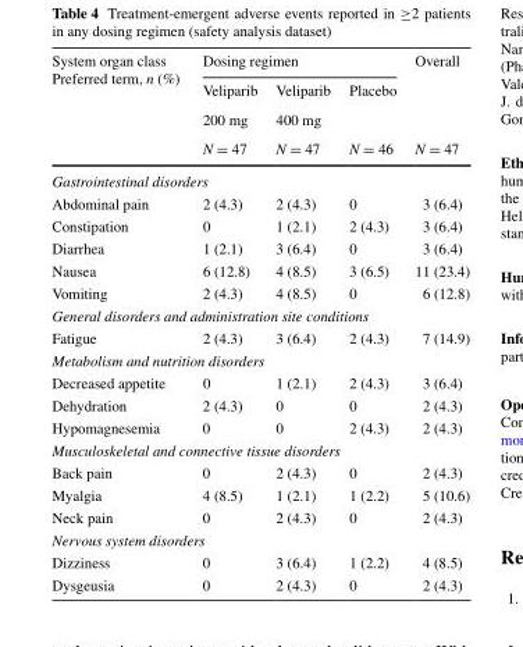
<table><thead><tr><td rowspan="4">System organ class Preferred term, n (%)</td><td colspan="3">Dosing regimen</td><td rowspan="4">Overall N = 47</td></tr><tr><td rowspan="3">Veliparib 200 mg N = 47</td><td rowspan="3">Veliparib 400 mg N = 47</td><td rowspan="3">Placebo N = 46</td></tr><tr></tr><tr></tr></thead><tbody><tr><td colspan="5">Gastrointestinal disorders</td></tr><tr><td>Abdominal pain</td><td>2 (4.3)</td><td>2 (4.3)</td><td>0</td><td>3 (6.4)</td></tr><tr><td>Constipation</td><td>0</td><td>1 (2.1)</td><td>2 (4.3)</td><td>3 (6.4)</td></tr><tr><td>Diarrhea</td><td>1 (2.1)</td><td>3 (6.4)</td><td>0</td><td>3 (6.4)</td></tr><tr><td>Nausea</td><td>6 (12.8)</td><td>4 (8.5)</td><td>3 (6.5)</td><td>11 (23.4)</td></tr><tr><td>Vomiting</td><td>2 (4.3)</td><td>4 (8.5)</td><td>0</td><td>6 (12.8)</td></tr><tr><td colspan="5">General disorders and administration site conditions</td></tr><tr><td>Fatigue</td><td>2 (4.3)</td><td>3 (6.4)</td><td>2 (4.3)</td><td>7 (14.9)</td></tr><tr><td colspan="5">Metabolism and nutrition disorders</td></tr><tr><td>Decreased appetite</td><td>0</td><td>1 (2.1)</td><td>2 (4.3)</td><td>3 (6.4)</td></tr><tr><td>Dehydration</td><td>2 (4.3)</td><td>0</td><td>0</td><td>2 (4.3)</td></tr><tr><td>Hypomagnesemia</td><td>0</td><td>0</td><td>2 (4.3)</td><td>2 (4.3)</td></tr><tr><td colspan="5">Musculoskeletal and connective tissue disorders</td></tr><tr><td>Back pain</td><td>0</td><td>2 (4.3)</td><td>0</td><td>2 (4.3)</td></tr><tr><td>Myalgia</td><td>4 (8.5)</td><td>1 (2.1)</td><td>1 (2.2)</td><td>5 (10.6)</td></tr><tr><td>Neck pain</td><td>0</td><td>2 (4.3)</td><td>0</td><td>2 (4.3)</td></tr><tr><td colspan="5">Nervous system disorders</td></tr><tr><td>Dizziness</td><td>0</td><td>3 (6.4)</td><td>1 (2.2)</td><td>4 (8.5)</td></tr><tr><td>Dysgeusia</td><td>0</td><td>2 (4.3)</td><td>0</td><td>2 (4.3)</td></tr></tbody></table>